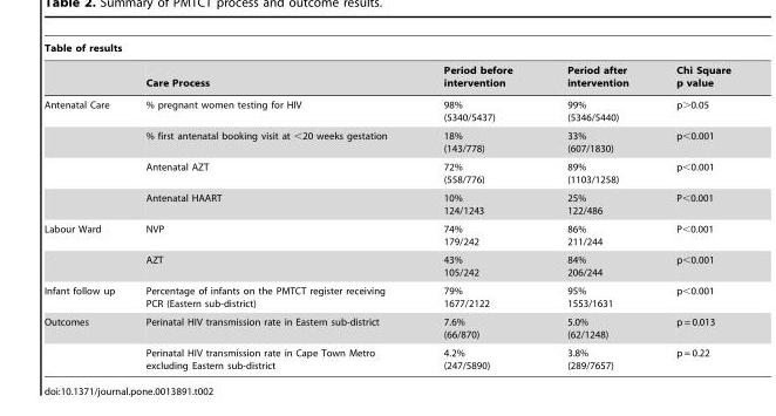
<table><thead><tr><td colspan="5">Table of results</td></tr><tr><td></td><td>Care Process</td><td>Period before intervention</td><td>Period after intervention</td><td>Chi Square p value</td></tr></thead><tbody><tr><td rowspan="4">Antenatal Care</td><td>% pregnant women testing for HIV</td><td>98% (5340/5437)</td><td>99% (5346/5440)</td><td>p&gt;0.05</td></tr><tr><td>% first antenatal booking visit at &lt;20 weeks gestation</td><td>18% (143/778)</td><td>33% (607/1830)</td><td>p&lt;0.001</td></tr><tr><td>Antenatal AZT</td><td>72% (558/776)</td><td>89% (1103/1258)</td><td>p&lt;0.001</td></tr><tr><td>Antenatal HAART</td><td>10% 124/1243</td><td>25% 122/486</td><td>P&lt;0.001</td></tr><tr><td rowspan="2">Labour Ward</td><td>NVP</td><td>74% 179/242</td><td>86% 211/244</td><td>P&lt;0.001</td></tr><tr><td>AZT</td><td>43% 105/242</td><td>84% 206/244</td><td>p&lt;0.001</td></tr><tr><td>Infant follow up</td><td>Percentage of infants on the PMTCT register receiving PCR (Eastern sub-district)</td><td>79% 1677/2122</td><td>95% 1553/1631</td><td>p&lt;0.001</td></tr><tr><td rowspan="2">Outcomes</td><td>Perinatal HIV transmission rate in Eastern sub-district</td><td>7.6% (66/870)</td><td>5.0% (62/1248)</td><td>p = 0.013</td></tr><tr><td>Perinatal HIV transmission rate in Cape Town Metro excluding Eastern sub-district</td><td>4.2% (247/5890)</td><td>3.8% (289/7657)</td><td>p = 0.22</td></tr></tbody></table>